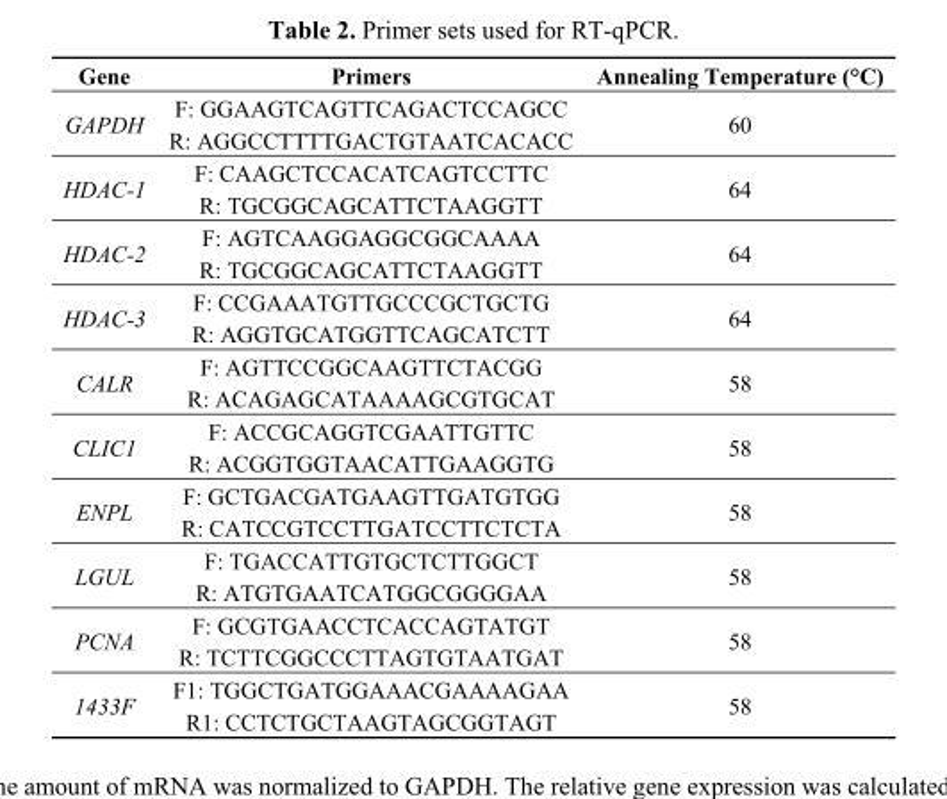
<table><thead><tr><td>Gene</td><td>Primers</td><td>Annealing Temperature (°C)</td></tr></thead><tbody><tr><td rowspan="2">GAPDH</td><td>F: GGAAGTCAGTTCAGACTCCAGCC</td><td rowspan="2">60</td></tr><tr><td>R: AGGCCTTTTGACTGTAATCACACC</td></tr><tr><td rowspan="2">HDAC-1</td><td>F: CAAGCTCCACATCAGTCCTTC</td><td rowspan="2">64</td></tr><tr><td>R: TGCGGCAGCATTCTAAGGTT</td></tr><tr><td rowspan="2">HDAC-2</td><td>F: AGTCAAGGAGGCGGCAAAA</td><td rowspan="2">64</td></tr><tr><td>R: TGCGGCAGCATTCTAAGGTT</td></tr><tr><td rowspan="2">HDAC-3</td><td>F: CCGAAATGTTGCCCGCTGCTG</td><td rowspan="2">64</td></tr><tr><td>R: AGGTGCATGGTTCAGCATCTT</td></tr><tr><td rowspan="2">CALR</td><td>F: AGTTCCGGCAAGTTCTACGG</td><td rowspan="2">58</td></tr><tr><td>R: ACAGAGCATAAAAGCGTGCAT</td></tr><tr><td rowspan="2">CLIC1</td><td>F: ACCGCAGGTCGAATTGTTC</td><td rowspan="2">58</td></tr><tr><td>R: ACGGTGGTAACATTGAAGGTG</td></tr><tr><td rowspan="2">ENPL</td><td>F: GCTGACGATGAAGTTGATGTGG</td><td rowspan="2">58</td></tr><tr><td>R: CATCCGTCCTTGATCCTTCTCTA</td></tr><tr><td rowspan="2">LGUL</td><td>F: TGACCATTGTGCTCTTGGCT</td><td rowspan="2">58</td></tr><tr><td>R: ATGTGAATCATGGCGGGGAA</td></tr><tr><td rowspan="2">PCNA</td><td>F: GCGTGAACCTCACCAGTATGT</td><td rowspan="2">58</td></tr><tr><td>R: TCTTCGGCCCTTAGTGTAATGAT</td></tr><tr><td rowspan="2">1433F</td><td>F1: TGGCTGATGGAAACGAAAAGAA</td><td rowspan="2">58</td></tr><tr><td>R1: CCTCTGCTAAGTAGCGGTAGT</td></tr></tbody></table>